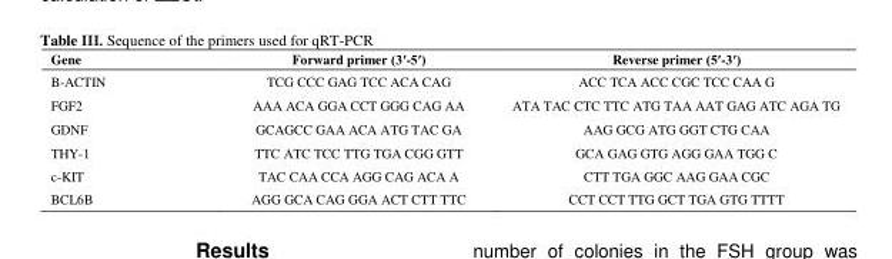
<table><thead><tr><td>Gene</td><td>Forward primer (3′-5′)</td><td>Reverse primer (5′-3′)</td></tr></thead><tbody><tr><td>B-ACTIN</td><td>TCG CCC GAG TCC ACA CAG</td><td>ACC TCA ACC CGC TCC CAA G</td></tr><tr><td>FGF2</td><td>AAA ACA GGA CCT GGG CAG AA</td><td>ATA TAC CTC TTC ATG TAA AAT GAG ATC AGA TG</td></tr><tr><td>GDNF</td><td>GCAGCC GAA ACA ATG TAC GA</td><td>AAG GCG ATG GGT CTG CAA</td></tr><tr><td>THY-1</td><td>TTC ATC TCC TTG TGA CGG GTT</td><td>GCA GAG GTG AGG GAA TGG C</td></tr><tr><td>c-KIT</td><td>TAC CAA CCA AGG CAG ACA A</td><td>CTT TGA GGC AAG GAA CGC</td></tr><tr><td>BCL6B</td><td>AGG GCA CAG GGA ACT CTT TTC</td><td>CCT CCT TTG GCT TGA GTG TTTT</td></tr></tbody></table>